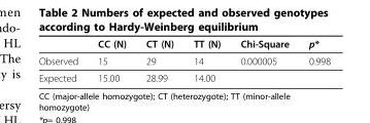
<table><thead><tr><td></td><td>CC (N)</td><td>CT (N)</td><td>TT (N)</td><td>Chi-Square</td><td>p*</td></tr></thead><tbody><tr><td>Observed</td><td>15</td><td>29</td><td>14</td><td>0.000005</td><td>0.998</td></tr><tr><td>Expected</td><td>15.00</td><td>28.99</td><td>14.00</td><td></td><td></td></tr></tbody></table>